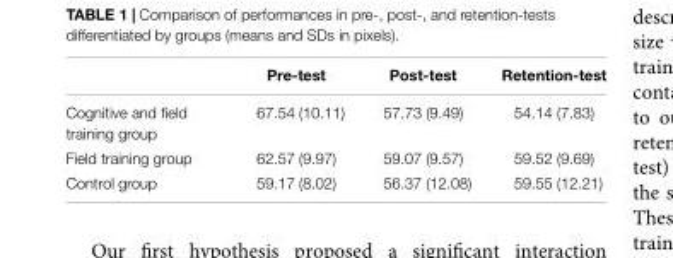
<table><thead><tr><td></td><td>Pre-test</td><td>Post-test</td><td>Retention-test</td></tr></thead><tbody><tr><td>Cognitive and field training group</td><td>67.54 (10.11)</td><td>57.73 (9.49)</td><td>54.14 (7.83)</td></tr><tr><td>Field training group</td><td>62.57 (9.97)</td><td>59.07 (9.57)</td><td>59.52 (9.69)</td></tr><tr><td>Control group</td><td>59.17 (8.02)</td><td>56.37 (12.08)</td><td>59.55 (12.21)</td></tr></tbody></table>